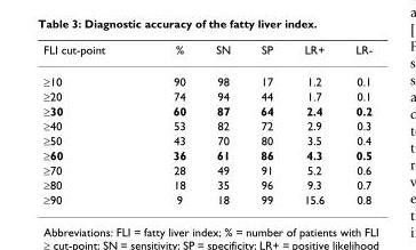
<table><thead><tr><td>FLI cut-point</td><td>%</td><td>SN</td><td>SP</td><td>LR+</td><td>LR-</td></tr></thead><tbody><tr><td>≥10</td><td>90</td><td>98</td><td>17</td><td>1.2</td><td>0.1</td></tr><tr><td>≥20</td><td>74</td><td>94</td><td>44</td><td>1.7</td><td>0.1</td></tr><tr><td>≥30</td><td>60</td><td>87</td><td>64</td><td>2.4</td><td>0.2</td></tr><tr><td>≥40</td><td>53</td><td>82</td><td>72</td><td>2.9</td><td>0.3</td></tr><tr><td>≥50</td><td>43</td><td>70</td><td>80</td><td>3.5</td><td>0.4</td></tr><tr><td>≥60</td><td>36</td><td>61</td><td>86</td><td>4.3</td><td>0.5</td></tr><tr><td>≥70</td><td>28</td><td>49</td><td>91</td><td>5.2</td><td>0.6</td></tr><tr><td>≥80</td><td>18</td><td>35</td><td>96</td><td>9.3</td><td>0.7</td></tr><tr><td>≥90</td><td>9</td><td>18</td><td>99</td><td>15.6</td><td>0.8</td></tr></tbody></table>